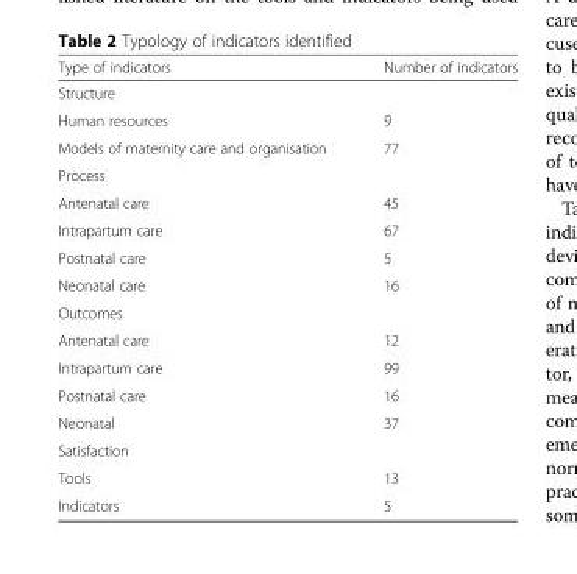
<table><thead><tr><td>Type of indicators</td><td>Number of indicators</td></tr></thead><tbody><tr><td colspan="2">Structure</td></tr><tr><td>Human resources</td><td>9</td></tr><tr><td>Models of maternity care and organisation</td><td>77</td></tr><tr><td colspan="2">Process</td></tr><tr><td>Antenatal care</td><td>45</td></tr><tr><td>Intrapartum care</td><td>67</td></tr><tr><td>Postnatal care</td><td>5</td></tr><tr><td>Neonatal care</td><td>16</td></tr><tr><td colspan="2">Outcomes</td></tr><tr><td>Antenatal care</td><td>12</td></tr><tr><td>Intrapartum care</td><td>99</td></tr><tr><td>Postnatal care</td><td>16</td></tr><tr><td>Neonatal</td><td>37</td></tr><tr><td colspan="2">Satisfaction</td></tr><tr><td>Tools</td><td>13</td></tr><tr><td>Indicators</td><td>5</td></tr></tbody></table>